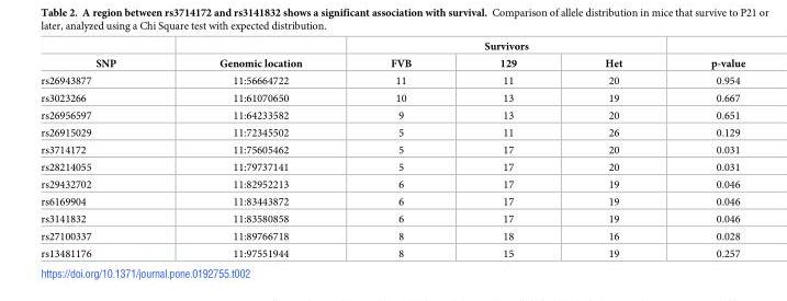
<table><thead><tr><td rowspan="2">SNP</td><td rowspan="2">Genomic location</td><td colspan="3">Survivors</td><td rowspan="2">p-value</td></tr><tr><td>FVB</td><td>129</td><td>Het</td></tr></thead><tbody><tr><td>rs26943877</td><td>11:56664722</td><td>11</td><td>11</td><td>20</td><td>0.954</td></tr><tr><td>rs3023266</td><td>11:61070650</td><td>10</td><td>13</td><td>19</td><td>0.667</td></tr><tr><td>rs26956597</td><td>11:64233582</td><td>9</td><td>13</td><td>20</td><td>0.651</td></tr><tr><td>rs26915029</td><td>11:72345502</td><td>5</td><td>11</td><td>26</td><td>0.129</td></tr><tr><td>rs3714172</td><td>11:75605462</td><td>5</td><td>17</td><td>20</td><td>0.031</td></tr><tr><td>rs28214055</td><td>11:79737141</td><td>5</td><td>17</td><td>20</td><td>0.031</td></tr><tr><td>rs29432702</td><td>11:82952213</td><td>6</td><td>17</td><td>19</td><td>0.046</td></tr><tr><td>rs6169904</td><td>11:83443872</td><td>6</td><td>17</td><td>19</td><td>0.046</td></tr><tr><td>rs3141832</td><td>11:83580858</td><td>6</td><td>17</td><td>19</td><td>0.046</td></tr><tr><td>rs27100337</td><td>11:89766718</td><td>8</td><td>18</td><td>16</td><td>0.028</td></tr><tr><td>rs13481176</td><td>11:97551944</td><td>8</td><td>15</td><td>19</td><td>0.257</td></tr></tbody></table>